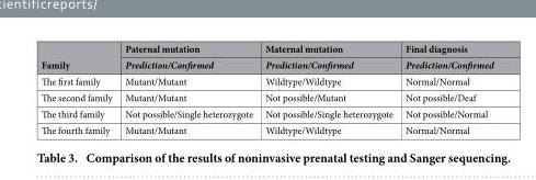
<table><thead><tr><td rowspan="2">Family</td><td rowspan="2">Paternal mutation Prediction/Confirmed</td><td rowspan="2">Maternal mutation Prediction/Confirmed</td><td rowspan="2">Final diagnosis Prediction/Confirmed</td></tr><tr></tr></thead><tbody><tr><td>The first family</td><td>Mutant/Mutant</td><td>Wildtype/Wildtype</td><td>Normal/Normal</td></tr><tr><td>The second family</td><td>Mutant/Mutant</td><td>Not possible/Mutant</td><td>Not possible/Deaf</td></tr><tr><td>The third family</td><td>Not possible/Single heterozygote</td><td>Not possible/Single heterozygote</td><td>Not possible/Normal</td></tr><tr><td>The fourth family</td><td>Mutant/Mutant</td><td>Wildtype/Wildtype</td><td>Normal/Normal</td></tr></tbody></table>